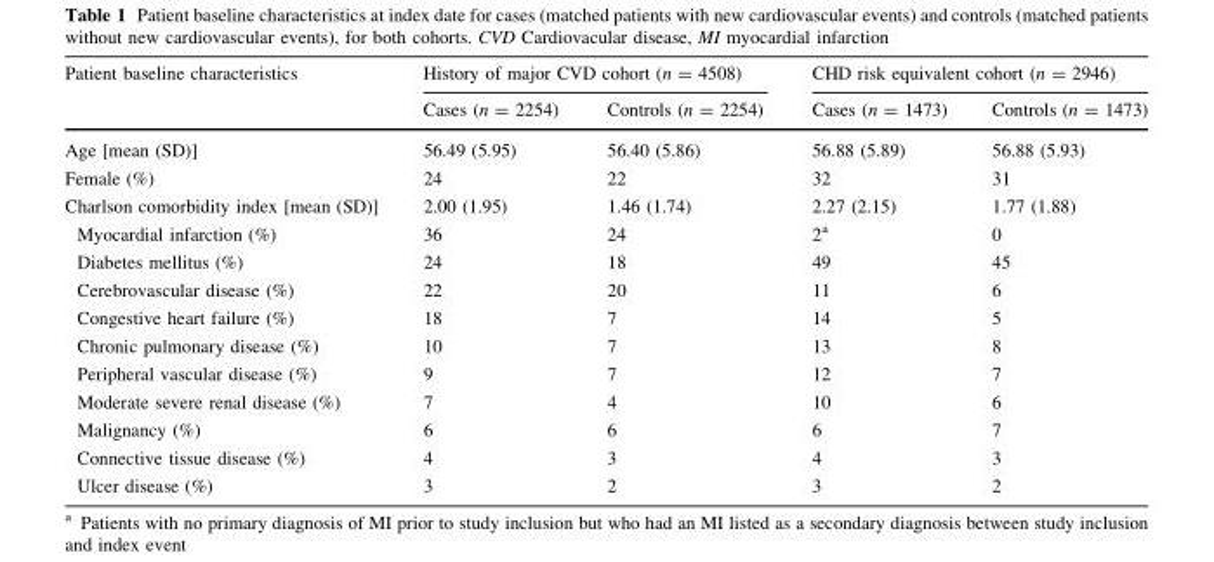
<table><thead><tr><td rowspan="2">Patient baseline characteristics</td><td colspan="2">History of major CVD cohort (n = 4508)</td><td colspan="2">CHD risk equivalent cohort (n = 2946)</td></tr><tr><td>Cases (n = 2254)</td><td>Controls (n = 2254)</td><td>Cases (n = 1473)</td><td>Controls (n = 1473)</td></tr></thead><tbody><tr><td>Age [mean (SD)]</td><td>56.49 (5.95)</td><td>56.40 (5.86)</td><td>56.88 (5.89)</td><td>56.88 (5.93)</td></tr><tr><td>Female (%)</td><td>24</td><td>22</td><td>32</td><td>31</td></tr><tr><td>Charlson comorbidity index [mean (SD)]</td><td>2.00 (1.95)</td><td>1.46 (1.74)</td><td>2.27 (2.15)</td><td>1.77 (1.88)</td></tr><tr><td>Myocardial infarction (%)</td><td>36</td><td>24</td><td>2<sup>a</sup></td><td>0</td></tr><tr><td>Diabetes mellitus (%)</td><td>24</td><td>18</td><td>49</td><td>45</td></tr><tr><td>Cerebrovascular disease (%)</td><td>22</td><td>20</td><td>11</td><td>6</td></tr><tr><td>Congestive heart failure (%)</td><td>18</td><td>7</td><td>14</td><td>5</td></tr><tr><td>Chronic pulmonary disease (%)</td><td>10</td><td>7</td><td>13</td><td>8</td></tr><tr><td>Peripheral vascular disease (%)</td><td>9</td><td>7</td><td>12</td><td>7</td></tr><tr><td>Moderate severe renal disease (%)</td><td>7</td><td>4</td><td>10</td><td>6</td></tr><tr><td>Malignancy (%)</td><td>6</td><td>6</td><td>6</td><td>7</td></tr><tr><td>Connective tissue disease (%)</td><td>4</td><td>3</td><td>4</td><td>3</td></tr><tr><td>Ulcer disease (%)</td><td>3</td><td>2</td><td>3</td><td>2</td></tr></tbody></table>